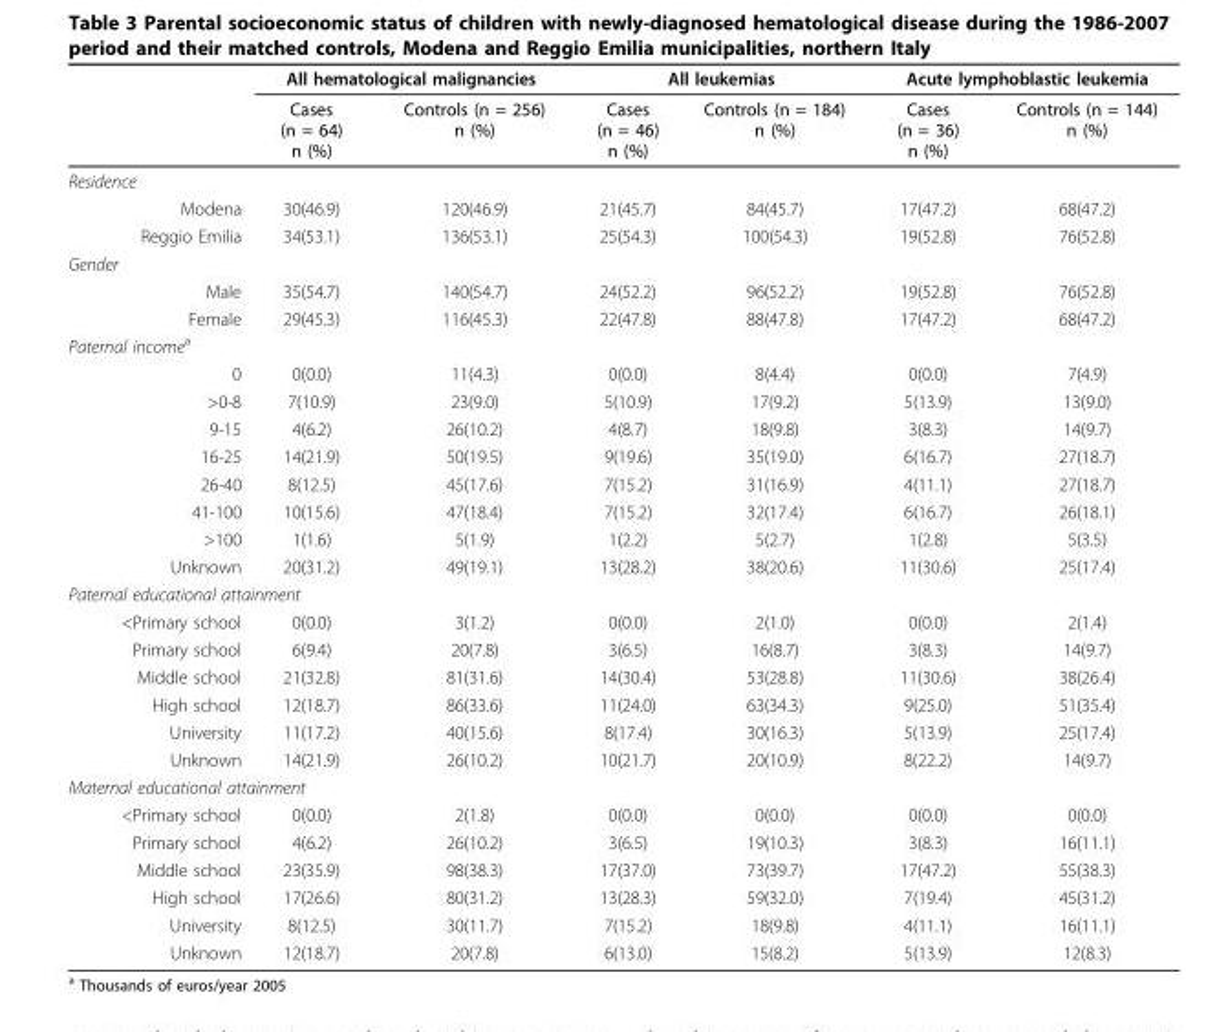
<table><thead><tr><td rowspan="2"></td><td colspan="2">All hematological malignancies</td><td colspan="2">All leukemias</td><td colspan="2">Acute lymphoblastic leukemia</td></tr><tr><td>Cases (n = 64) n (%)</td><td>Controls (n = 256) n (%)</td><td>Cases (n = 46) n (%)</td><td>Controls (n = 184) n (%)</td><td>Cases (n = 36) n (%)</td><td>Controls (n = 144) n (%)</td></tr></thead><tbody><tr><td colspan="7">Residence</td></tr><tr><td>Modena</td><td>30(46.9)</td><td>120(46.9)</td><td>21(45.7)</td><td>84(45.7)</td><td>17(47.2)</td><td>68(47.2)</td></tr><tr><td>Reggio Emilia</td><td>34(53.1)</td><td>136(53.1)</td><td>25(54.3)</td><td>100(54.3)</td><td>19(52.8)</td><td>76(52.8)</td></tr><tr><td colspan="7">Gender</td></tr><tr><td>Male</td><td>35(54.7)</td><td>140(54.7)</td><td>24(52.2)</td><td>96(52.2)</td><td>19(52.8)</td><td>76(52.8)</td></tr><tr><td>Female</td><td>29(45.3)</td><td>116(45.3)</td><td>22(47.8)</td><td>88(47.8)</td><td>17(47.2)</td><td>68(47.2)</td></tr><tr><td colspan="7">Paternal income<sup>a</sup></td></tr><tr><td>0</td><td>0(0.0)</td><td>11(4.3)</td><td>0(0.0)</td><td>8(4.4)</td><td>0(0.0)</td><td>7(4.9)</td></tr><tr><td>&gt;0-8</td><td>7(10.9)</td><td>23(9.0)</td><td>5(10.9)</td><td>17(9.2)</td><td>5(13.9)</td><td>13(9.0)</td></tr><tr><td>9-15</td><td>4(6.2)</td><td>26(10.2)</td><td>4(8.7)</td><td>18(9.8)</td><td>3(8.3)</td><td>14(9.7)</td></tr><tr><td>16-25</td><td>14(21.9)</td><td>50(19.5)</td><td>9(19.6)</td><td>35(19.0)</td><td>6(16.7)</td><td>27(18.7)</td></tr><tr><td>26-40</td><td>8(12.5)</td><td>45(17.6)</td><td>7(15.2)</td><td>31(16.9)</td><td>4(11.1)</td><td>27(18.7)</td></tr><tr><td>41-100</td><td>10(15.6)</td><td>47(18.4)</td><td>7(15.2)</td><td>32(17.4)</td><td>6(16.7)</td><td>26(18.1)</td></tr><tr><td>&gt;100</td><td>1(1.6)</td><td>5(1.9)</td><td>1(2.2)</td><td>5(2.7)</td><td>1(2.8)</td><td>5(3.5)</td></tr><tr><td>Unknown</td><td>20(31.2)</td><td>49(19.1)</td><td>13(28.2)</td><td>38(20.6)</td><td>11(30.6)</td><td>25(17.4)</td></tr><tr><td colspan="7">Paternal educational attainment</td></tr><tr><td>&lt;Primary school</td><td>0(0.0)</td><td>3(1.2)</td><td>0(0.0)</td><td>2(1.0)</td><td>0(0.0)</td><td>2(1.4)</td></tr><tr><td>Primary school</td><td>6(9.4)</td><td>20(7.8)</td><td>3(6.5)</td><td>16(8.7)</td><td>3(8.3)</td><td>14(9.7)</td></tr><tr><td>Middle school</td><td>21(32.8)</td><td>81(31.6)</td><td>14(30.4)</td><td>53(28.8)</td><td>11(30.6)</td><td>38(26.4)</td></tr><tr><td>High school</td><td>12(18.7)</td><td>86(33.6)</td><td>11(24.0)</td><td>63(34.3)</td><td>9(25.0)</td><td>51(35.4)</td></tr><tr><td>University</td><td>11(17.2)</td><td>40(15.6)</td><td>8(17.4)</td><td>30(16.3)</td><td>5(13.9)</td><td>25(17.4)</td></tr><tr><td>Unknown</td><td>14(21.9)</td><td>26(10.2)</td><td>10(21.7)</td><td>20(10.9)</td><td>8(22.2)</td><td>14(9.7)</td></tr><tr><td colspan="7">Maternal educational attainment</td></tr><tr><td>&lt;Primary school</td><td>0(0.0)</td><td>2(1.8)</td><td>0(0.0)</td><td>0(0.0)</td><td>0(0.0)</td><td>0(0.0)</td></tr><tr><td>Primary school</td><td>4(6.2)</td><td>26(10.2)</td><td>3(6.5)</td><td>19(10.3)</td><td>3(8.3)</td><td>16(11.1)</td></tr><tr><td>Middle school</td><td>23(35.9)</td><td>98(38.3)</td><td>17(37.0)</td><td>73(39.7)</td><td>17(47.2)</td><td>55(38.3)</td></tr><tr><td>High school</td><td>17(26.6)</td><td>80(31.2)</td><td>13(28.3)</td><td>59(32.0)</td><td>7(19.4)</td><td>45(31.2)</td></tr><tr><td>University</td><td>8(12.5)</td><td>30(11.7)</td><td>7(15.2)</td><td>18(9.8)</td><td>4(11.1)</td><td>16(11.1)</td></tr><tr><td>Unknown</td><td>12(18.7)</td><td>20(7.8)</td><td>6(13.0)</td><td>15(8.2)</td><td>5(13.9)</td><td>12(8.3)</td></tr></tbody></table>